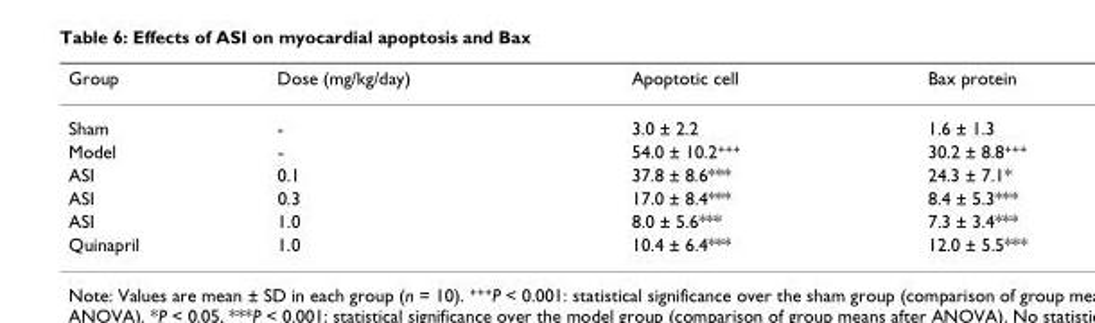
<table><thead><tr><td>Group</td><td>Dose (mg/kg/day)</td><td>Apoptotic cell</td><td>Bax protein</td></tr></thead><tbody><tr><td>Sham</td><td>-</td><td>3.0 ± 2.2</td><td>1.6 ± 1.3</td></tr><tr><td>Model</td><td>-</td><td>54.0 ± 10.2<sup>+++</sup></td><td>30.2 ± 8.8<sup>+++</sup></td></tr><tr><td>ASI</td><td>0.1</td><td>37.8 ± 8.6***</td><td>24.3 ± 7.1*</td></tr><tr><td>ASI</td><td>0.3</td><td>17.0 ± 8.4***</td><td>8.4 ± 5.3***</td></tr><tr><td>ASI</td><td>1.0</td><td>8.0 ± 5.6***</td><td>7.3 ± 3.4***</td></tr><tr><td>Quinapril</td><td>1.0</td><td>10.4 ± 6.4***</td><td>12.0 ± 5.5***</td></tr></tbody></table>